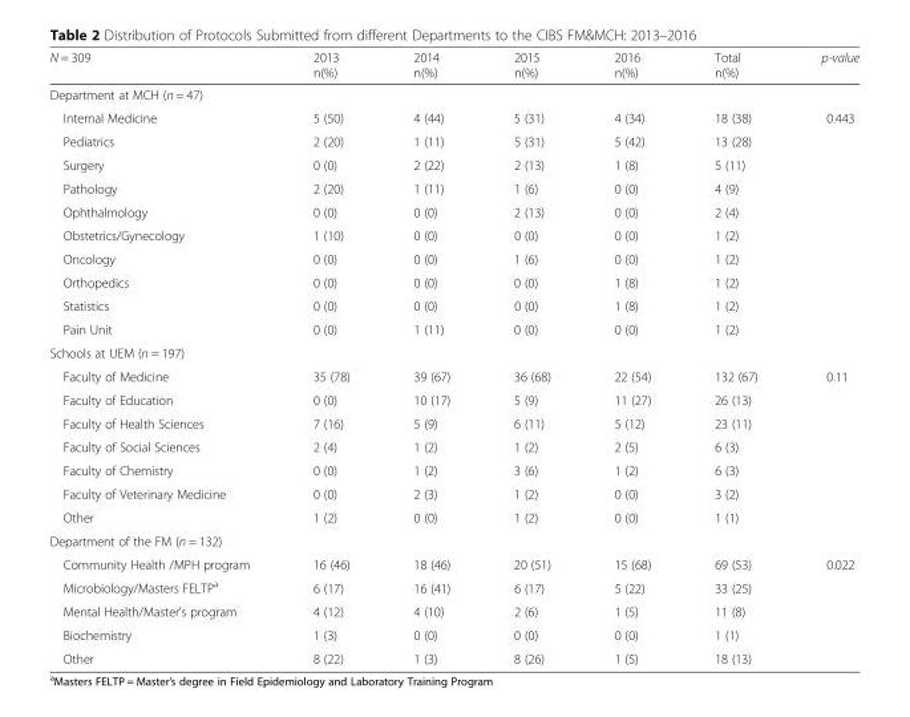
<table><thead><tr><td>N = 309</td><td>2013 n(%)</td><td>2014 n(%)</td><td>2015 n(%)</td><td>2016 n(%)</td><td>Total n(%)</td><td>p-value</td></tr></thead><tbody><tr><td colspan="7">Department at MCH (n = 47)</td></tr><tr><td>Internal Medicine</td><td>5 (50)</td><td>4 (44)</td><td>5 (31)</td><td>4 (34)</td><td>18 (38)</td><td>0.443</td></tr><tr><td>Pediatrics</td><td>2 (20)</td><td>1 (11)</td><td>5 (31)</td><td>5 (42)</td><td>13 (28)</td><td></td></tr><tr><td>Surgery</td><td>0 (0)</td><td>2 (22)</td><td>2 (13)</td><td>1 (8)</td><td>5 (11)</td><td></td></tr><tr><td>Pathology</td><td>2 (20)</td><td>1 (11)</td><td>1 (6)</td><td>0 (0)</td><td>4 (9)</td><td></td></tr><tr><td>Ophthalmology</td><td>0 (0)</td><td>0 (0)</td><td>2 (13)</td><td>0 (0)</td><td>2 (4)</td><td></td></tr><tr><td>Obstetrics/Gynecology</td><td>1 (10)</td><td>0 (0)</td><td>0 (0)</td><td>0 (0)</td><td>1 (2)</td><td></td></tr><tr><td>Oncology</td><td>0 (0)</td><td>0 (0)</td><td>1 (6)</td><td>0 (0)</td><td>1 (2)</td><td></td></tr><tr><td>Orthopedics</td><td>0 (0)</td><td>0 (0)</td><td>0 (0)</td><td>1 (8)</td><td>1 (2)</td><td></td></tr><tr><td>Statistics</td><td>0 (0)</td><td>0 (0)</td><td>0 (0)</td><td>1 (8)</td><td>1 (2)</td><td></td></tr><tr><td>Pain Unit</td><td>0 (0)</td><td>1 (11)</td><td>0 (0)</td><td>0 (0)</td><td>1 (2)</td><td></td></tr><tr><td colspan="7">Schools at UEM (n = 197)</td></tr><tr><td>Faculty of Medicine</td><td>35 (78)</td><td>39 (67)</td><td>36 (68)</td><td>22 (54)</td><td>132 (67)</td><td>0.11</td></tr><tr><td>Faculty of Education</td><td>0 (0)</td><td>10 (17)</td><td>5 (9)</td><td>11 (27)</td><td>26 (13)</td><td></td></tr><tr><td>Faculty of Health Sciences</td><td>7 (16)</td><td>5 (9)</td><td>6 (11)</td><td>5 (12)</td><td>23 (11)</td><td></td></tr><tr><td>Faculty of Social Sciences</td><td>2 (4)</td><td>1 (2)</td><td>1 (2)</td><td>2 (5)</td><td>6 (3)</td><td></td></tr><tr><td>Faculty of Chemistry</td><td>0 (0)</td><td>1 (2)</td><td>3 (6)</td><td>1 (2)</td><td>6 (3)</td><td></td></tr><tr><td>Faculty of Veterinary Medicine</td><td>0 (0)</td><td>2 (3)</td><td>1 (2)</td><td>0 (0)</td><td>3 (2)</td><td></td></tr><tr><td>Other</td><td>1 (2)</td><td>0 (0)</td><td>1 (2)</td><td>0 (0)</td><td>1 (1)</td><td></td></tr><tr><td colspan="7">Department of the FM (n = 132)</td></tr><tr><td>Community Health /MPH program</td><td>16 (46)</td><td>18 (46)</td><td>20 (51)</td><td>15 (68)</td><td>69 (53)</td><td>0.022</td></tr><tr><td>Microbiology/Masters FELTP<sup>a</sup></td><td>6 (17)</td><td>16 (41)</td><td>6 (17)</td><td>5 (22)</td><td>33 (25)</td><td></td></tr><tr><td>Mental Health/Master’s program</td><td>4 (12)</td><td>4 (10)</td><td>2 (6)</td><td>1 (5)</td><td>11 (8)</td><td></td></tr><tr><td>Biochemistry</td><td>1 (3)</td><td>0 (0)</td><td>0 (0)</td><td>0 (0)</td><td>1 (1)</td><td></td></tr><tr><td>Other</td><td>8 (22)</td><td>1 (3)</td><td>8 (26)</td><td>1 (5)</td><td>18 (13)</td><td></td></tr></tbody></table>